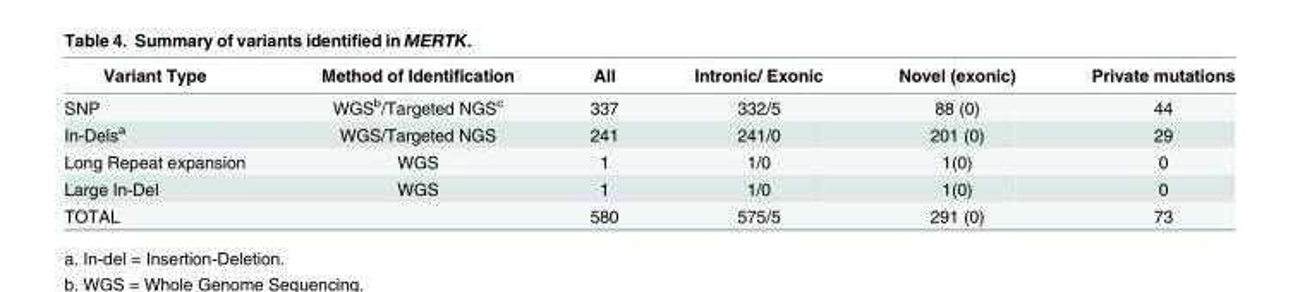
<table><thead><tr><td>Variant Type</td><td>Method of Identification</td><td>All</td><td>Intronic/ Exonic</td><td>Novel (exonic)</td><td>Private mutations</td></tr></thead><tbody><tr><td>SNP</td><td>WGS<sup>b</sup>/Targeted NGS<sup>c</sup></td><td>337</td><td>332/5</td><td>88 (0)</td><td>44</td></tr><tr><td>In-Dels<sup>a</sup></td><td>WGS/Targeted NGS</td><td>241</td><td>241/0</td><td>201 (0)</td><td>29</td></tr><tr><td>Long Repeat expansion</td><td>WGS</td><td>1</td><td>1/0</td><td>1(0)</td><td>0</td></tr><tr><td>Large In-Del</td><td>WGS</td><td>1</td><td>1/0</td><td>1(0)</td><td>0</td></tr><tr><td>TOTAL</td><td></td><td>580</td><td>575/5</td><td>291 (0)</td><td>73</td></tr></tbody></table>